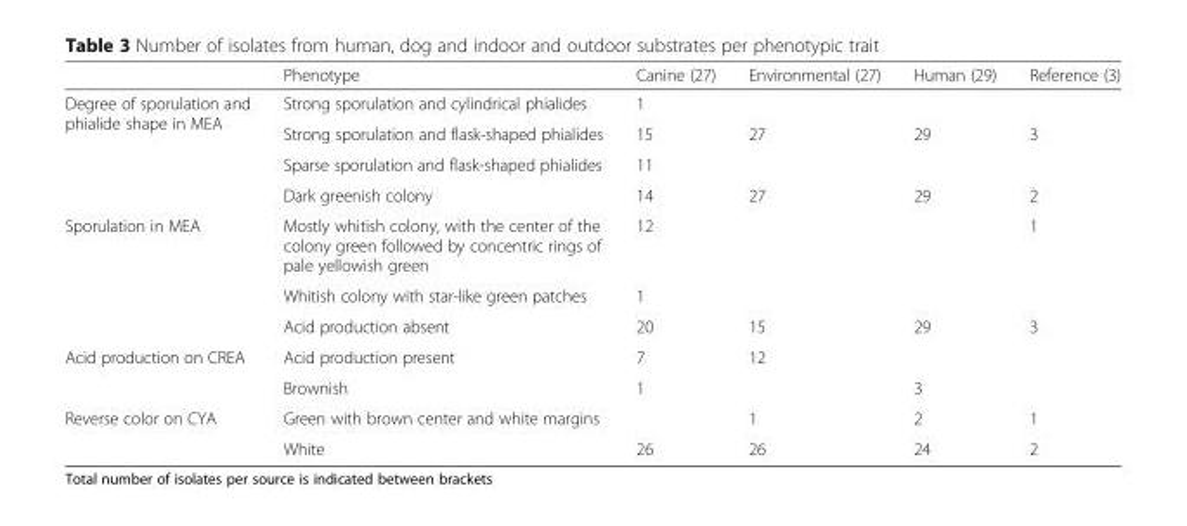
<table><thead><tr><td></td><td>Phenotype</td><td>Canine (27)</td><td>Environmental (27)</td><td>Human (29)</td><td>Reference (3)</td></tr></thead><tbody><tr><td rowspan="4">Degree of sporulation and phialide shape in MEA</td><td>Strong sporulation and cylindrical phialides</td><td>1</td><td></td><td></td><td></td></tr><tr><td>Strong sporulation and flask-shaped phialides</td><td>15</td><td>27</td><td>29</td><td>3</td></tr><tr><td>Sparse sporulation and flask-shaped phialides</td><td>11</td><td></td><td></td><td></td></tr><tr><td>Dark greenish colony</td><td>14</td><td>27</td><td>29</td><td>2</td></tr><tr><td rowspan="3">Sporulation in MEA</td><td>Mostly whitish colony, with the center of the colony green followed by concentric rings of pale yellowish green</td><td>12</td><td></td><td></td><td>1</td></tr><tr><td>Whitish colony with star-like green patches</td><td>1</td><td></td><td></td><td></td></tr><tr><td>Acid production absent</td><td>20</td><td>15</td><td>29</td><td>3</td></tr><tr><td rowspan="2">Acid production on CREA</td><td>Acid production present</td><td>7</td><td>12</td><td></td><td></td></tr><tr><td>Brownish</td><td>1</td><td></td><td>3</td><td></td></tr><tr><td rowspan="2">Reverse color on CYA</td><td>Green with brown center and white margins</td><td></td><td>1</td><td>2</td><td>1</td></tr><tr><td>White</td><td>26</td><td>26</td><td>24</td><td>2</td></tr></tbody></table>